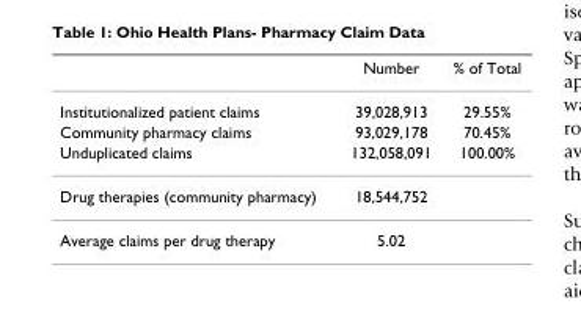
<table><thead><tr><td></td><td>Number</td><td>% of Total</td></tr></thead><tbody><tr><td>Institutionalized patient claims</td><td>39,028,913</td><td>29.55%</td></tr><tr><td>Community pharmacy claims</td><td>93,029,178</td><td>70.45%</td></tr><tr><td>Unduplicated claims</td><td>132,058,091</td><td>100.00%</td></tr><tr><td>Drug therapies (community pharmacy)</td><td>18,544,752</td><td></td></tr><tr><td>Average claims per drug therapy</td><td>5.02</td><td></td></tr></tbody></table>